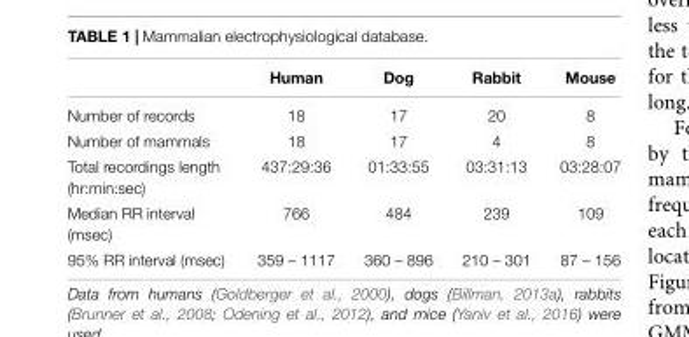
<table><thead><tr><td></td><td>Human</td><td>Dog</td><td>Rabbit</td><td>Mouse</td></tr></thead><tbody><tr><td>Number of records</td><td>18</td><td>17</td><td>20</td><td>8</td></tr><tr><td>Number of mammals</td><td>18</td><td>17</td><td>4</td><td>8</td></tr><tr><td>Total recordings length (hr:min:sec)</td><td>437:29:36</td><td>01:33:55</td><td>03:31:13</td><td>03:28:07</td></tr><tr><td>Median RR interval (msec)</td><td>766</td><td>484</td><td>239</td><td>109</td></tr><tr><td>95% RR interval (msec)</td><td>359 – 1117</td><td>360 – 896</td><td>210 – 301</td><td>87 – 156</td></tr></tbody></table>